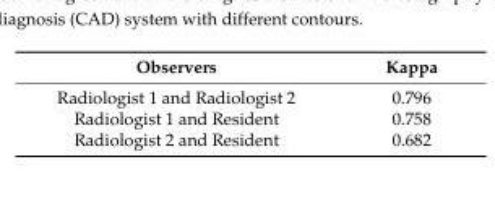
<table><thead><tr><td>Observers</td><td>Kappa</td></tr></thead><tbody><tr><td>Radiologist 1 and Radiologist 2</td><td>0.796</td></tr><tr><td>Radiologist 1 and Resident</td><td>0.758</td></tr><tr><td>Radiologist 2 and Resident</td><td>0.682</td></tr></tbody></table>